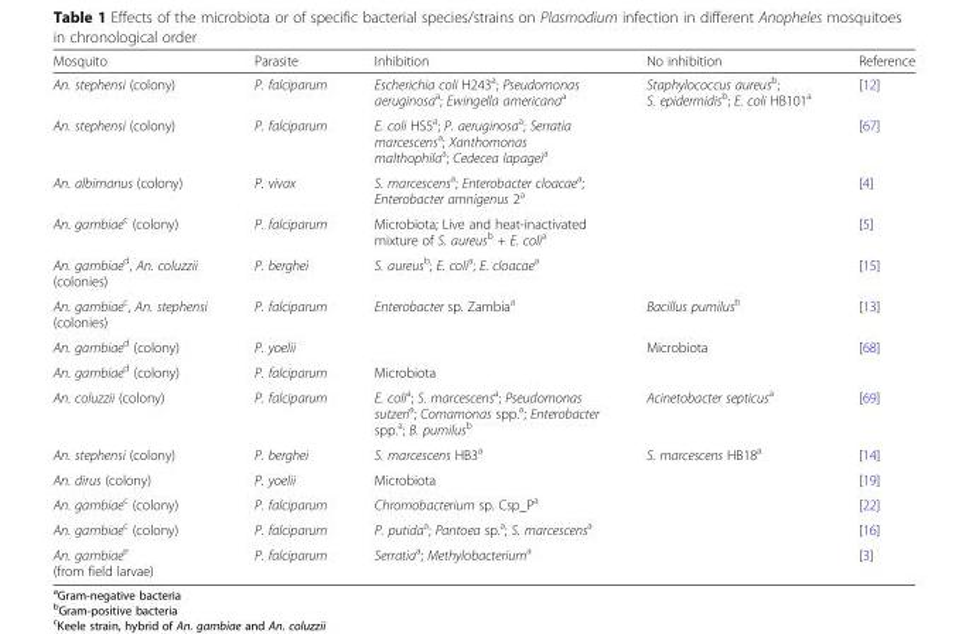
<table><thead><tr><td>Mosquito</td><td>Parasite</td><td>Inhibition</td><td>No inhibition</td><td>Reference</td></tr></thead><tbody><tr><td>An. stephensi (colony)</td><td>P. falciparum</td><td>Escherichia coli H243<sup>a</sup>; Pseudomonas aeruginosa<sup>a</sup>; Ewingella americana<sup>a</sup></td><td>Staphylococcus aureus<sup>b</sup>; S. epidermidis<sup>b</sup>; E. coli HB101<sup>a</sup></td><td>[12]</td></tr><tr><td>An. stephensi (colony)</td><td>P. falciparum</td><td>E. coli HS5<sup>a</sup>; P. aeruginosa<sup>a</sup>; Serratia marcescens<sup>a</sup>; Xanthomonas malthophila<sup>a</sup>; Cedecea lapagei<sup>a</sup></td><td></td><td>[67]</td></tr><tr><td>An. albimanus (colony)</td><td>P. vivax</td><td>S. marcescens<sup>a</sup>; Enterobacter cloacae<sup>a</sup>; Enterobacter amnigenus 2<sup>a</sup></td><td></td><td>[4]</td></tr><tr><td>An. gambiae<sup>c</sup> (colony)</td><td>P. falciparum</td><td>Microbiota; Live and heat-inactivated mixture of S. aureus<sup>b</sup> + E. coli<sup>a</sup></td><td></td><td>[5]</td></tr><tr><td>An. gambiae<sup>d</sup>, An. coluzzii (colonies)</td><td>P. berghei</td><td>S. aureus<sup>b</sup>; E. coli<sup>a</sup>; E. cloacae<sup>a</sup></td><td></td><td>[15]</td></tr><tr><td>An. gambiae<sup>c</sup>, An. stephensi (colonies)</td><td>P. falciparum</td><td>Enterobacter sp. Zambia<sup>a</sup></td><td>Bacillus pumilus<sup>b</sup></td><td>[13]</td></tr><tr><td>An. gambiae<sup>d</sup> (colony)</td><td>P. yoelii</td><td></td><td>Microbiota</td><td rowspan="2">[68]</td></tr><tr><td>An. gambiae<sup>d</sup> (colony)</td><td>P. falciparum</td><td>Microbiota</td><td></td></tr><tr><td>An. coluzzii (colony)</td><td>P. falciparum</td><td>E. coli<sup>a</sup>; S. marcescens<sup>a</sup>; Pseudomonas sutzeri<sup>a</sup>; Comamonas spp.<sup>a</sup>; Enterobacter spp.<sup>a</sup>; B. pumilus<sup>b</sup></td><td>Acinetobacter septicus<sup>a</sup></td><td>[69]</td></tr><tr><td>An. stephensi (colony)</td><td>P. berghei</td><td>S. marcescens HB3<sup>a</sup></td><td>S. marcescens HB18<sup>a</sup></td><td>[14]</td></tr><tr><td>An. dirus (colony)</td><td>P. yoelii</td><td>Microbiota</td><td></td><td>[19]</td></tr><tr><td>An. gambiae<sup>c</sup> (colony)</td><td>P. falciparum</td><td>Chromobacterium sp. Csp_P<sup>a</sup></td><td></td><td>[22]</td></tr><tr><td>An. gambiae<sup>c</sup> (colony)</td><td>P. falciparum</td><td>P. putida<sup>a</sup>; Pantoea sp.<sup>a</sup>; S. marcescens<sup>a</sup></td><td></td><td>[16]</td></tr><tr><td>An. gambiae<sup>e</sup> (from field larvae)</td><td>P. falciparum</td><td>Serratia<sup>a</sup>; Methylobacterium<sup>a</sup></td><td></td><td>[3]</td></tr></tbody></table>